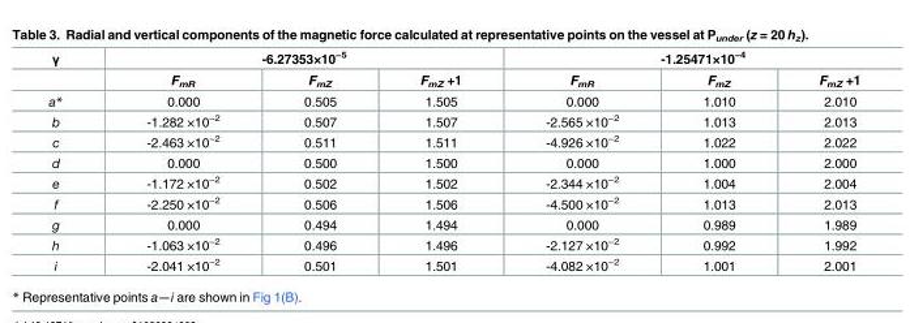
<table><thead><tr><td rowspan="2">γ</td><td colspan="3">-6.27353×10<sup>−5</sup></td><td colspan="3">-1.25471×10<sup>−4</sup></td></tr><tr><td>F<sub>mR</sub></td><td>F<sub>mZ</sub></td><td>F<sub>mZ</sub> +1</td><td>F<sub>mR</sub></td><td>F<sub>mZ</sub></td><td>F<sub>mZ</sub> +1</td></tr></thead><tbody><tr><td>a*</td><td>0.000</td><td>0.505</td><td>1.505</td><td>0.000</td><td>1.010</td><td>2.010</td></tr><tr><td>b</td><td>-1.282 ×10<sup>−2</sup></td><td>0.507</td><td>1.507</td><td>-2.565 ×10<sup>−2</sup></td><td>1.013</td><td>2.013</td></tr><tr><td>c</td><td>-2.463 ×10<sup>−2</sup></td><td>0.511</td><td>1.511</td><td>-4.926 ×10<sup>−2</sup></td><td>1.022</td><td>2.022</td></tr><tr><td>d</td><td>0.000</td><td>0.500</td><td>1.500</td><td>0.000</td><td>1.000</td><td>2.000</td></tr><tr><td>e</td><td>-1.172 ×10<sup>−2</sup></td><td>0.502</td><td>1.502</td><td>-2.344 ×10<sup>−2</sup></td><td>1.004</td><td>2.004</td></tr><tr><td>f</td><td>-2.250 ×10<sup>−2</sup></td><td>0.506</td><td>1.506</td><td>-4.500 ×10<sup>−2</sup></td><td>1.013</td><td>2.013</td></tr><tr><td>g</td><td>0.000</td><td>0.494</td><td>1.494</td><td>0.000</td><td>0.989</td><td>1.989</td></tr><tr><td>h</td><td>-1.063 ×10<sup>−2</sup></td><td>0.496</td><td>1.496</td><td>-2.127 ×10<sup>−2</sup></td><td>0.992</td><td>1.992</td></tr><tr><td>i</td><td>-2.041 ×10<sup>−2</sup></td><td>0.501</td><td>1.501</td><td>-4.082 ×10<sup>−2</sup></td><td>1.001</td><td>2.001</td></tr></tbody></table>